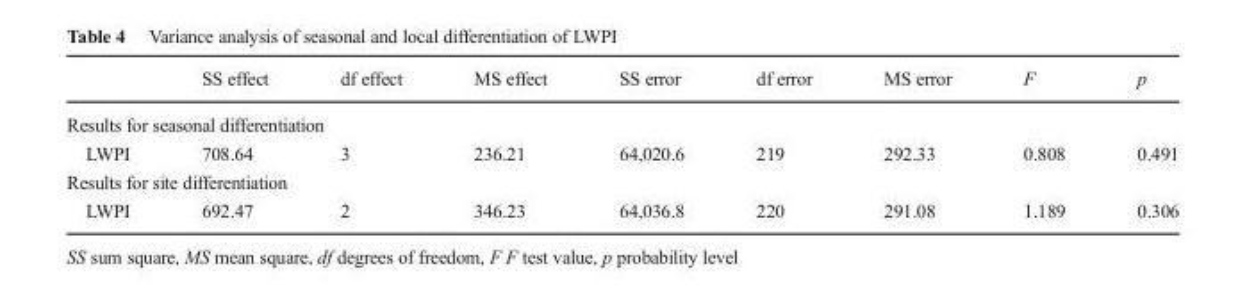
<table><thead><tr><td></td><td>SS effect</td><td>df effect</td><td>MS effect</td><td>SS error</td><td>df error</td><td>MS error</td><td>F</td><td>p</td></tr></thead><tbody><tr><td colspan="9">Results for seasonal differentiation</td></tr><tr><td>LWPI</td><td>708.64</td><td>3</td><td>236.21</td><td>64,020.6</td><td>219</td><td>292.33</td><td>0.808</td><td>0.491</td></tr><tr><td colspan="9">Results for site differentiation</td></tr><tr><td>LWPI</td><td>692.47</td><td>2</td><td>346.23</td><td>64,036.8</td><td>220</td><td>291.08</td><td>1.189</td><td>0.306</td></tr></tbody></table>